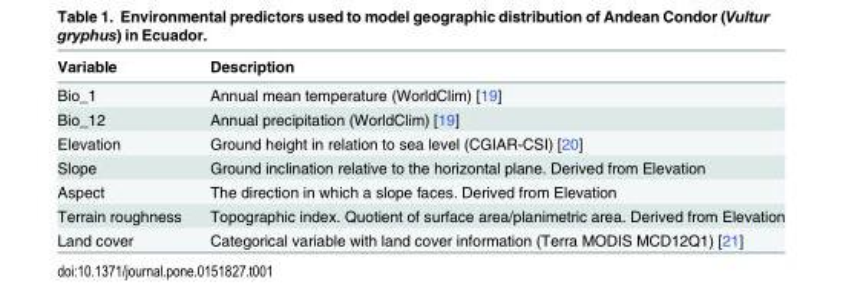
<table><thead><tr><td>Variable</td><td>Description</td></tr></thead><tbody><tr><td>Bio_1</td><td>Annual mean temperature (WorldClim) [19]</td></tr><tr><td>Bio_12</td><td>Annual precipitation (WorldClim) [19]</td></tr><tr><td>Elevation</td><td>Ground height in relation to sea level (CGIAR-CSI) [20]</td></tr><tr><td>Slope</td><td>Ground inclination relative to the horizontal plane. Derived from Elevation</td></tr><tr><td>Aspect</td><td>The direction in which a slope faces. Derived from Elevation</td></tr><tr><td>Terrain roughness</td><td>Topographic index. Quotient of surface area/planimetric area. Derived from Elevation</td></tr><tr><td>Land cover</td><td>Categorical variable with land cover information (Terra MODIS MCD12Q1) [21]</td></tr></tbody></table>